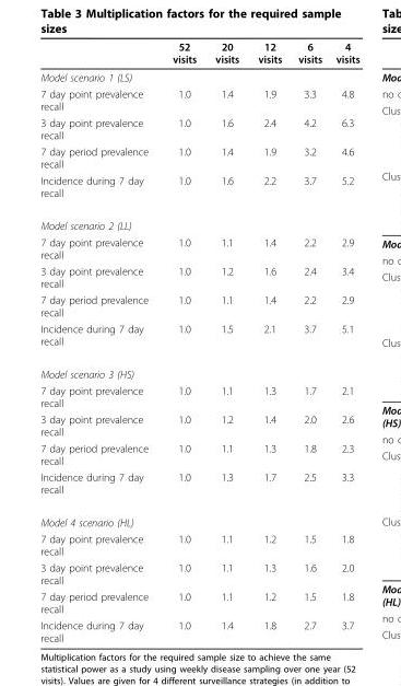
<table><thead><tr><td></td><td>52 visits</td><td>20 visits</td><td>12 visits</td><td>6 visits</td><td>4 visits</td></tr></thead><tbody><tr><td colspan="6">Model scenario 1 (LS)</td></tr><tr><td>7 day point prevalence recall</td><td>1.0</td><td>1.4</td><td>1.9</td><td>3.3</td><td>4.8</td></tr><tr><td>3 day point prevalence recall</td><td>1.0</td><td>1.6</td><td>2.4</td><td>4.2</td><td>6.3</td></tr><tr><td>7 day period prevalence recall</td><td>1.0</td><td>1.4</td><td>1.9</td><td>3.2</td><td>4.6</td></tr><tr><td>Incidence during 7 day recall</td><td>1.0</td><td>1.6</td><td>2.2</td><td>3.7</td><td>5.2</td></tr><tr><td colspan="6">Model scenario 2 (LL)</td></tr><tr><td>7 day point prevalence recall</td><td>1.0</td><td>1.1</td><td>1.4</td><td>2.2</td><td>2.9</td></tr><tr><td>3 day point prevalence recall</td><td>1.0</td><td>1.2</td><td>1.6</td><td>2.4</td><td>3.4</td></tr><tr><td>7 day period prevalence recall</td><td>1.0</td><td>1.1</td><td>1.4</td><td>2.2</td><td>2.9</td></tr><tr><td>Incidence during 7 day recall</td><td>1.0</td><td>1.5</td><td>2.1</td><td>3.7</td><td>5.1</td></tr><tr><td colspan="6">Model scenario 3 (HS)</td></tr><tr><td>7 day point prevalence recall</td><td>1.0</td><td>1.1</td><td>1.3</td><td>1.7</td><td>2.1</td></tr><tr><td>3 day point prevalence recall</td><td>1.0</td><td>1.2</td><td>1.4</td><td>2.0</td><td>2.6</td></tr><tr><td>7 day period prevalence recall</td><td>1.0</td><td>1.1</td><td>1.3</td><td>1.8</td><td>2.3</td></tr><tr><td>Incidence during 7 day recall</td><td>1.0</td><td>1.3</td><td>1.7</td><td>2.5</td><td>3.3</td></tr><tr><td colspan="6">Model 4 scenario (HL)</td></tr><tr><td>7 day point prevalence recall</td><td>1.0</td><td>1.1</td><td>1.2</td><td>1.5</td><td>1.8</td></tr><tr><td>3 day point prevalence recall</td><td>1.0</td><td>1.1</td><td>1.3</td><td>1.6</td><td>2.0</td></tr><tr><td>7 day period prevalence recall</td><td>1.0</td><td>1.1</td><td>1.2</td><td>1.5</td><td>1.8</td></tr><tr><td>Incidence during 7 day recall</td><td>1.0</td><td>1.4</td><td>1.8</td><td>2.7</td><td>3.7</td></tr></tbody></table>